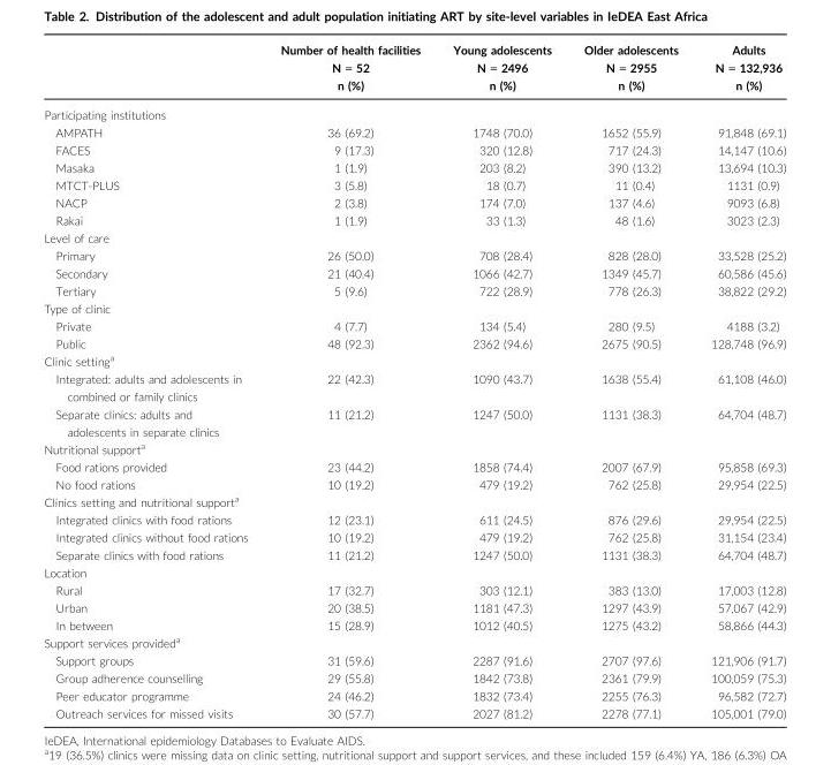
<table><thead><tr><td rowspan="2"></td><td rowspan="2">Number of health facilities N = 52 n (%)</td><td rowspan="2">Young adolescents N = 2496 n (%)</td><td rowspan="2">Older adolescents N = 2955 n (%)</td><td rowspan="2">Adults N = 132,936 n (%)</td></tr><tr></tr></thead><tbody><tr><td colspan="5">Participating institutions</td></tr><tr><td>AMPATH</td><td>36 (69.2)</td><td>1748 (70.0)</td><td>1652 (55.9)</td><td>91,848 (69.1)</td></tr><tr><td>FACES</td><td>9 (17.3)</td><td>320 (12.8)</td><td>717 (24.3)</td><td>14,147 (10.6)</td></tr><tr><td>Masaka</td><td>1 (1.9)</td><td>203 (8.2)</td><td>390 (13.2)</td><td>13,694 (10.3)</td></tr><tr><td>MTCT-PLUS</td><td>3 (5.8)</td><td>18 (0.7)</td><td>11 (0.4)</td><td>1131 (0.9)</td></tr><tr><td>NACP</td><td>2 (3.8)</td><td>174 (7.0)</td><td>137 (4.6)</td><td>9093 (6.8)</td></tr><tr><td>Rakai</td><td>1 (1.9)</td><td>33 (1.3)</td><td>48 (1.6)</td><td>3023 (2.3)</td></tr><tr><td colspan="5">Level of care</td></tr><tr><td>Primary</td><td>26 (50.0)</td><td>708 (28.4)</td><td>828 (28.0)</td><td>33,528 (25.2)</td></tr><tr><td>Secondary</td><td>21 (40.4)</td><td>1066 (42.7)</td><td>1349 (45.7)</td><td>60,586 (45.6)</td></tr><tr><td>Tertiary</td><td>5 (9.6)</td><td>722 (28.9)</td><td>778 (26.3)</td><td>38,822 (29.2)</td></tr><tr><td colspan="5">Type of clinic</td></tr><tr><td>Private</td><td>4 (7.7)</td><td>134 (5.4)</td><td>280 (9.5)</td><td>4188 (3.2)</td></tr><tr><td>Public</td><td>48 (92.3)</td><td>2362 (94.6)</td><td>2675 (90.5)</td><td>128,748 (96.9)</td></tr><tr><td colspan="5">Clinic setting<sup>a</sup></td></tr><tr><td>Integrated: adults and adolescents in combined or family clinics</td><td>22 (42.3)</td><td>1090 (43.7)</td><td>1638 (55.4)</td><td>61,108 (46.0)</td></tr><tr><td>Separate clinics: adults and adolescents in separate clinics</td><td>11 (21.2)</td><td>1247 (50.0)</td><td>1131 (38.3)</td><td>64,704 (48.7)</td></tr><tr><td colspan="5">Nutritional support<sup>a</sup></td></tr><tr><td>Food rations provided</td><td>23 (44.2)</td><td>1858 (74.4)</td><td>2007 (67.9)</td><td>95,858 (69.3)</td></tr><tr><td>No food rations</td><td>10 (19.2)</td><td>479 (19.2)</td><td>762 (25.8)</td><td>29,954 (22.5)</td></tr><tr><td colspan="5">Clinics setting and nutritional support<sup>a</sup></td></tr><tr><td>Integrated clinics with food rations</td><td>12 (23.1)</td><td>611 (24.5)</td><td>876 (29.6)</td><td>29,954 (22.5)</td></tr><tr><td>Integrated clinics without food rations</td><td>10 (19.2)</td><td>479 (19.2)</td><td>762 (25.8)</td><td>31,154 (23.4)</td></tr><tr><td>Separate clinics with food rations</td><td>11 (21.2)</td><td>1247 (50.0)</td><td>1131 (38.3)</td><td>64,704 (48.7)</td></tr><tr><td colspan="5">Location</td></tr><tr><td>Rural</td><td>17 (32.7)</td><td>303 (12.1)</td><td>383 (13.0)</td><td>17,003 (12.8)</td></tr><tr><td>Urban</td><td>20 (38.5)</td><td>1181 (47.3)</td><td>1297 (43.9)</td><td>57,067 (42.9)</td></tr><tr><td>In between</td><td>15 (28.9)</td><td>1012 (40.5)</td><td>1275 (43.2)</td><td>58,866 (44.3)</td></tr><tr><td colspan="5">Support services provided<sup>a</sup></td></tr><tr><td>Support groups</td><td>31 (59.6)</td><td>2287 (91.6)</td><td>2707 (97.6)</td><td>121,906 (91.7)</td></tr><tr><td>Group adherence counselling</td><td>29 (55.8)</td><td>1842 (73.8)</td><td>2361 (79.9)</td><td>100,059 (75.3)</td></tr><tr><td>Peer educator programme</td><td>24 (46.2)</td><td>1832 (73.4)</td><td>2255 (76.3)</td><td>96,582 (72.7)</td></tr><tr><td>Outreach services for missed visits</td><td>30 (57.7)</td><td>2027 (81.2)</td><td>2278 (77.1)</td><td>105,001 (79.0)</td></tr></tbody></table>